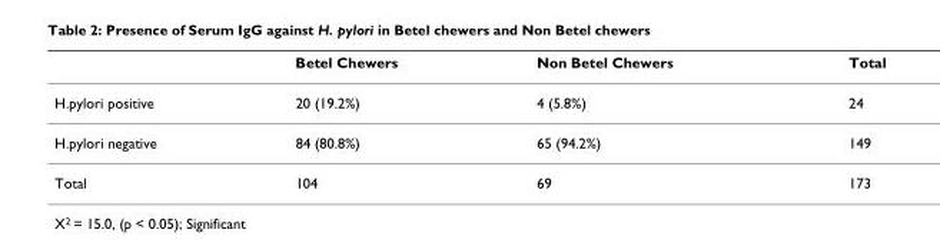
<table><thead><tr><td></td><td>Betel Chewers</td><td>Non Betel Chewers</td><td>Total</td></tr></thead><tbody><tr><td>H.pylori positive</td><td>20 (19.2%)</td><td>4 (5.8%)</td><td>24</td></tr><tr><td>H.pylori negative</td><td>84 (80.8%)</td><td>65 (94.2%)</td><td>149</td></tr><tr><td>Total</td><td>104</td><td>69</td><td>173</td></tr></tbody></table>